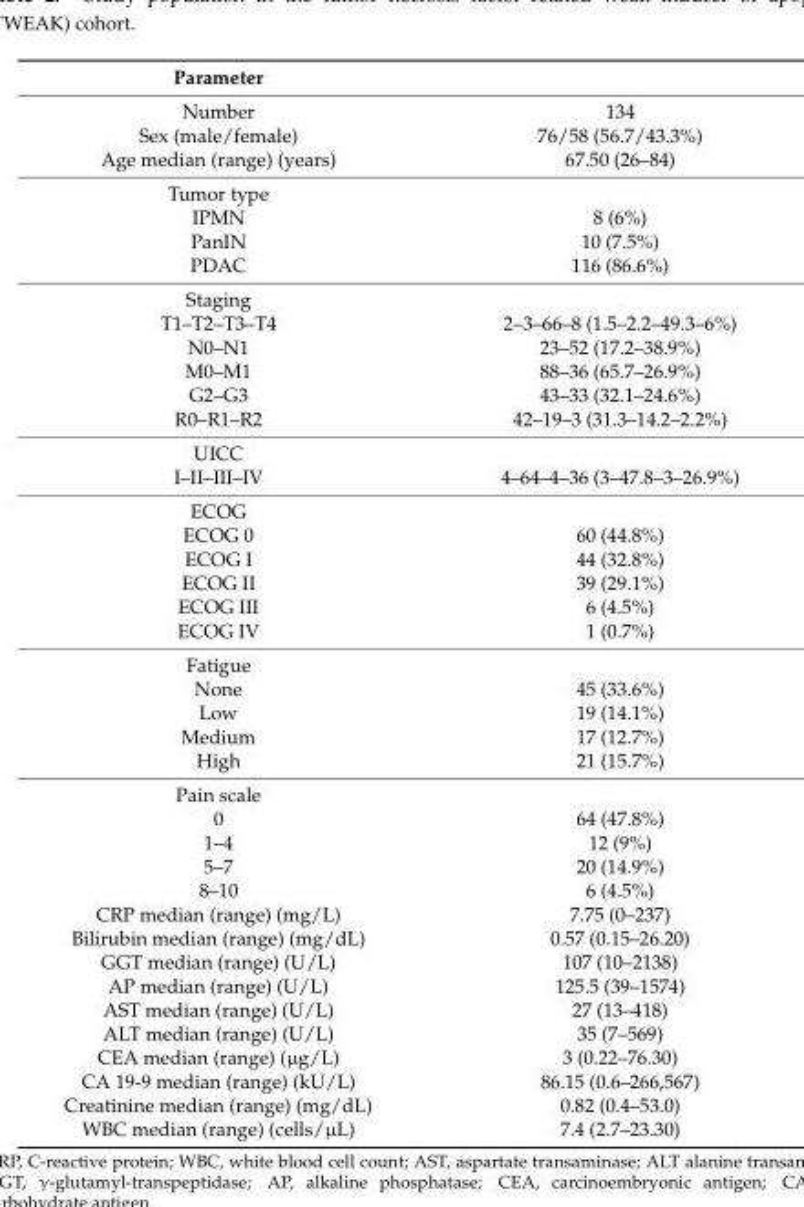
<table><thead><tr><td>Parameter</td><td></td></tr></thead><tbody><tr><td>Number</td><td>134</td></tr><tr><td>Sex (male/female)</td><td>76/58 (56.7/43.3%)</td></tr><tr><td>Age median (range) (years)</td><td>67.50 (26–84)</td></tr><tr><td colspan="2">Tumor type</td></tr><tr><td>IPMN</td><td>8 (6%)</td></tr><tr><td>PanIN</td><td>10 (7.5%)</td></tr><tr><td>PDAC</td><td>116 (86.6%)</td></tr><tr><td colspan="2">Staging</td></tr><tr><td>T1–T2–T3–T4</td><td>2–3–66–8 (1.5–2.2–49.3–6%)</td></tr><tr><td>N0–N1</td><td>23–52 (17.2–38.9%)</td></tr><tr><td>M0–M1</td><td>88–36 (65.7–26.9%)</td></tr><tr><td>G2–G3</td><td>43–33 (32.1–24.6%)</td></tr><tr><td>R0–R1–R2</td><td>42–19–3 (31.3–14.2–2.2%)</td></tr><tr><td colspan="2">UICC</td></tr><tr><td>I–II–III–IV</td><td>4–64–4–36 (3–47.8–3–26.9%)</td></tr><tr><td colspan="2">ECOG</td></tr><tr><td>ECOG 0</td><td>60 (44.8%)</td></tr><tr><td>ECOG I</td><td>44 (32.8%)</td></tr><tr><td>ECOG II</td><td>39 (29.1%)</td></tr><tr><td>ECOG III</td><td>6 (4.5%)</td></tr><tr><td>ECOG IV</td><td>1 (0.7%)</td></tr><tr><td colspan="2">Fatigue</td></tr><tr><td>None</td><td>45 (33.6%)</td></tr><tr><td>Low</td><td>19 (14.1%)</td></tr><tr><td>Medium</td><td>17 (12.7%)</td></tr><tr><td>High</td><td>21 (15.7%)</td></tr><tr><td colspan="2">Pain scale</td></tr><tr><td>0</td><td>64 (47.8%)</td></tr><tr><td>1–4</td><td>12 (9%)</td></tr><tr><td>5–7</td><td>20 (14.9%)</td></tr><tr><td>8–10</td><td>6 (4.5%)</td></tr><tr><td>CRP median (range) (mg/L)</td><td>7.75 (0–237)</td></tr><tr><td>Bilirubin median (range) (mg/dL)</td><td>0.57 (0.15–26.20)</td></tr><tr><td>GGT median (range) (U/L)</td><td>107 (10–2138)</td></tr><tr><td>AP median (range) (U/L)</td><td>125.5 (39–1574)</td></tr><tr><td>AST median (range) (U/L)</td><td>27 (13–418)</td></tr><tr><td>ALT median (range) (U/L)</td><td>35 (7–569)</td></tr><tr><td>CEA median (range) (µg/L)</td><td>3 (0.22–76.30)</td></tr><tr><td>CA 19-9 median (range) (kU/L)</td><td>86.15 (0.6–266,567)</td></tr><tr><td>Creatinine median (range) (mg/dL)</td><td>0.82 (0.4–53.0)</td></tr><tr><td>WBC median (range) (cells/µL)</td><td>7.4 (2.7–23.30)</td></tr></tbody></table>